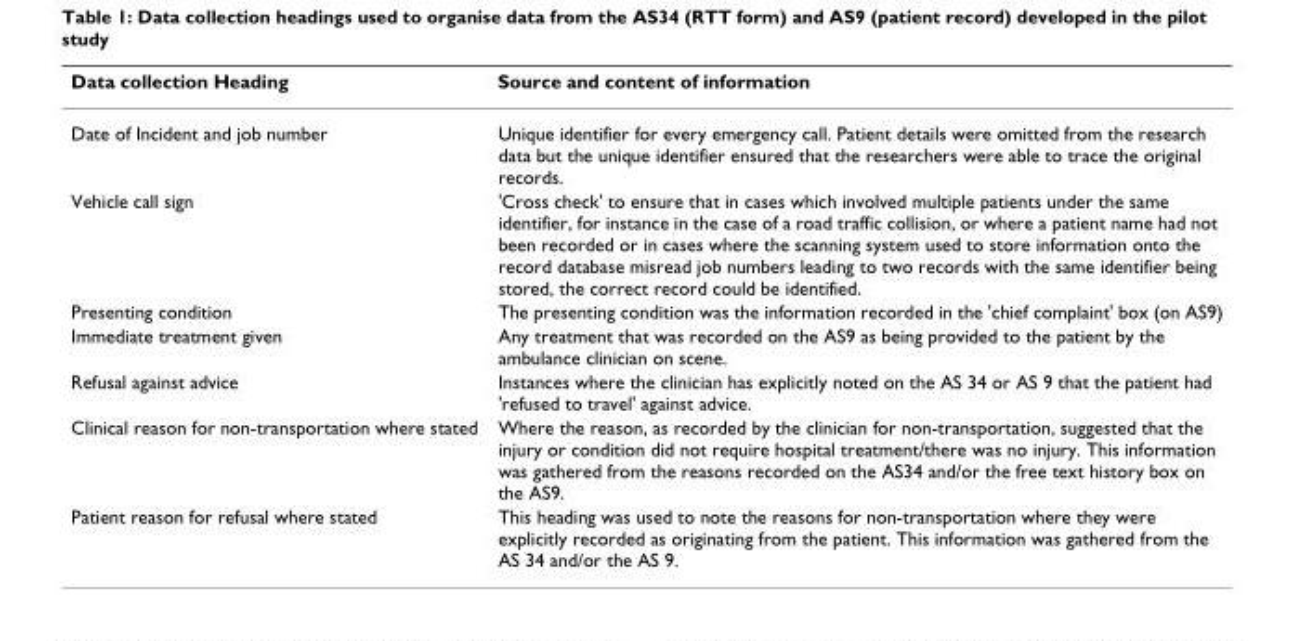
<table><thead><tr><td>Data collection Heading</td><td>Source and content of information</td></tr></thead><tbody><tr><td>Date of Incident and job number</td><td>Unique identifier for every emergency call. Patient details were omitted from the research data but the unique identifier ensured that the researchers were able to trace the original records.</td></tr><tr><td>Vehicle call sign</td><td>&#x27;Cross check&#x27; to ensure that in cases which involved multiple patients under the same identifier, for instance in the case of a road traffic collision, or where a patient name had not been recorded or in cases where the scanning system used to store information onto the record database misread job numbers leading to two records with the same identifier being stored, the correct record could be identified.</td></tr><tr><td>Presenting condition</td><td>The presenting condition was the information recorded in the &#x27;chief complaint&#x27; box (on AS9)</td></tr><tr><td>Immediate treatment given</td><td>Any treatment that was recorded on the AS9 as being provided to the patient by the ambulance clinician on scene.</td></tr><tr><td>Refusal against advice</td><td>Instances where the clinician has explicitly noted on the AS 34 or AS 9 that the patient had &#x27;refused to travel&#x27; against advice.</td></tr><tr><td>Clinical reason for non-transportation where stated</td><td>Where the reason, as recorded by the clinician for non-transportation, suggested that the injury or condition did not require hospital treatment/there was no injury. This information was gathered from the reasons recorded on the AS34 and/or the free text history box on the AS9.</td></tr><tr><td>Patient reason for refusal where stated</td><td>This heading was used to note the reasons for non-transportation where they were explicitly recorded as originating from the patient. This information was gathered from the AS 34 and/or the AS 9.</td></tr></tbody></table>